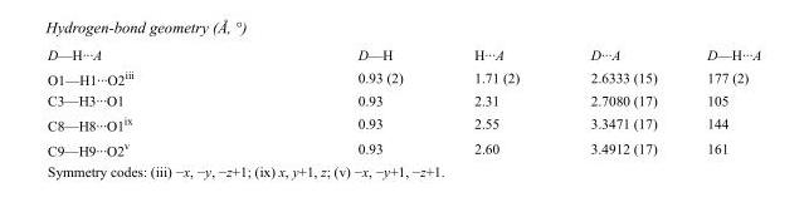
<table><tbody><tr><td>D—H···A</td><td>D—H</td><td>H···A</td><td>D···A</td><td>D—H···A</td></tr><tr><td>O1—H1···O2<sup>iii</sup></td><td>0.93 (2)</td><td>1.71 (2)</td><td>2.6333 (15)</td><td>177 (2)</td></tr><tr><td>C3—H3···O1</td><td>0.93</td><td>2.31</td><td>2.7080 (17)</td><td>105</td></tr><tr><td>C8—H8···O1<sup>ix</sup></td><td>0.93</td><td>2.55</td><td>3.3471 (17)</td><td>144</td></tr><tr><td>C9—H9···O2<sup>v</sup></td><td>0.93</td><td>2.60</td><td>3.4912 (17)</td><td>161</td></tr></tbody></table>